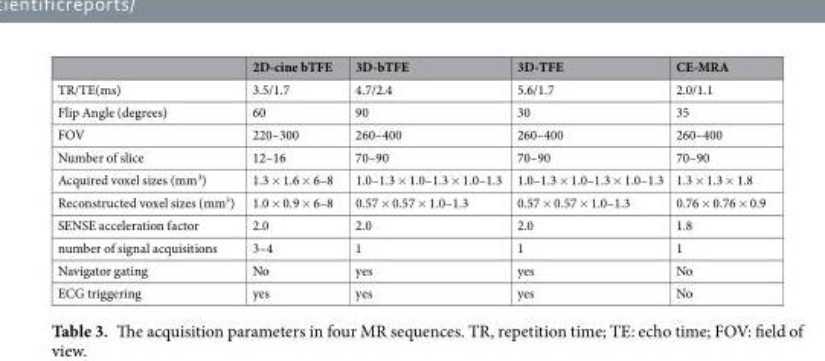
<table><thead><tr><td></td><td>2D-cine bTFE</td><td>3D-bTFE</td><td>3D-TFE</td><td>CE-MRA</td></tr></thead><tbody><tr><td>TR/TE(ms)</td><td>3.5/1.7</td><td>4.7/2.4</td><td>5.6/1.7</td><td>2.0/1.1</td></tr><tr><td>Flip Angle (degrees)</td><td>60</td><td>90</td><td>30</td><td>35</td></tr><tr><td>FOV</td><td>220–300</td><td>260–400</td><td>260–400</td><td>260–400</td></tr><tr><td>Number of slice</td><td>12–16</td><td>70–90</td><td>70–90</td><td>70–90</td></tr><tr><td>Acquired voxel sizes (mm<sup>3</sup>)</td><td>1.3 × 1.6 × 6–8</td><td>1.0–1.3 × 1.0–1.3 × 1.0–1.3</td><td>1.0–1.3 × 1.0–1.3 × 1.0–1.3</td><td>1.3 × 1.3 × 1.8</td></tr><tr><td>Reconstructed voxel sizes (mm<sup>3</sup>)</td><td>1.0 × 0.9 × 6–8</td><td>0.57 × 0.57 × 1.0–1.3</td><td>0.57 × 0.57 × 1.0–1.3</td><td>0.76 × 0.76 × 0.9</td></tr><tr><td>SENSE acceleration factor</td><td>2.0</td><td>2.0</td><td>2.0</td><td>1.8</td></tr><tr><td>number of signal acquisitions</td><td>3–4</td><td>1</td><td>1</td><td>1</td></tr><tr><td>Navigator gating</td><td>No</td><td>yes</td><td>yes</td><td>No</td></tr><tr><td>ECG triggering</td><td>yes</td><td>yes</td><td>yes</td><td>No</td></tr></tbody></table>